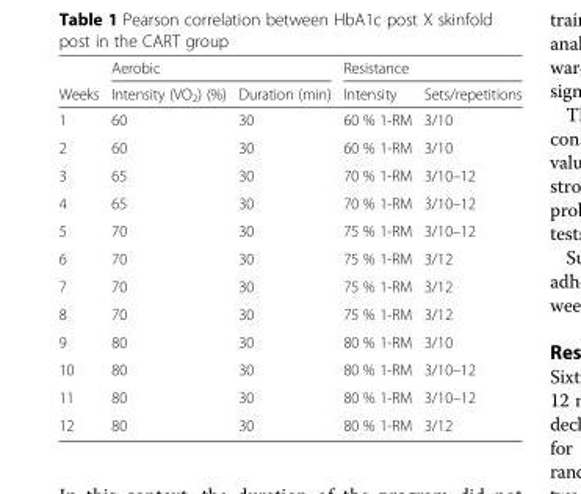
<table><thead><tr><td rowspan="2">Weeks</td><td colspan="2">Aerobic</td><td colspan="2">Resistance</td></tr><tr><td>Intensity (VO2) (%)</td><td>Duration (min)</td><td>Intensity</td><td>Sets/repetitions</td></tr></thead><tbody><tr><td>1</td><td>60</td><td>30</td><td>60 % 1-RM</td><td>3/10</td></tr><tr><td>2</td><td>60</td><td>30</td><td>60 % 1-RM</td><td>3/10</td></tr><tr><td>3</td><td>65</td><td>30</td><td>70 % 1-RM</td><td>3/10–12</td></tr><tr><td>4</td><td>65</td><td>30</td><td>70 % 1-RM</td><td>3/10–12</td></tr><tr><td>5</td><td>70</td><td>30</td><td>75 % 1-RM</td><td>3/10–12</td></tr><tr><td>6</td><td>70</td><td>30</td><td>75 % 1-RM</td><td>3/12</td></tr><tr><td>7</td><td>70</td><td>30</td><td>75 % 1-RM</td><td>3/12</td></tr><tr><td>8</td><td>70</td><td>30</td><td>75 % 1-RM</td><td>3/12</td></tr><tr><td>9</td><td>80</td><td>30</td><td>80 % 1-RM</td><td>3/10</td></tr><tr><td>10</td><td>80</td><td>30</td><td>80 % 1-RM</td><td>3/10–12</td></tr><tr><td>11</td><td>80</td><td>30</td><td>80 % 1-RM</td><td>3/10–12</td></tr><tr><td>12</td><td>80</td><td>30</td><td>80 % 1-RM</td><td>3/12</td></tr></tbody></table>